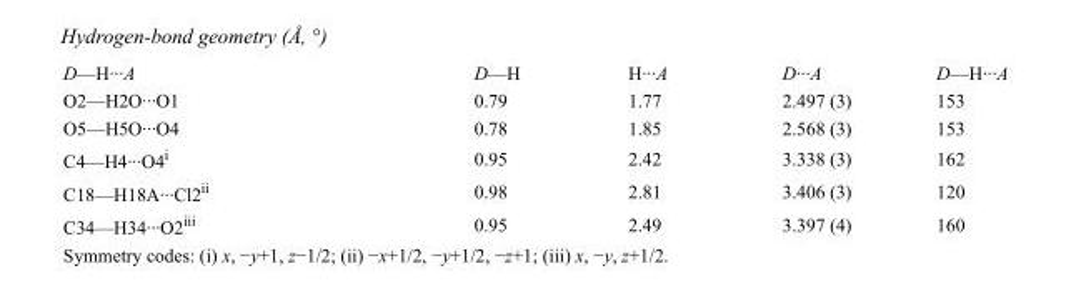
<table><tbody><tr><td>D—H···A</td><td>D—H</td><td>H···A</td><td>D···A</td><td>D—H···A</td></tr><tr><td>O2—H2O···O1</td><td>0.79</td><td>1.77</td><td>2.497 (3)</td><td>153</td></tr><tr><td>O5—H5O···O4</td><td>0.78</td><td>1.85</td><td>2.568 (3)</td><td>153</td></tr><tr><td>C4—H4···O4<sup>i</sup></td><td>0.95</td><td>2.42</td><td>3.338 (3)</td><td>162</td></tr><tr><td>C18—H18A···Cl2<sup>ii</sup></td><td>0.98</td><td>2.81</td><td>3.406 (3)</td><td>120</td></tr><tr><td>C34—H34···O2<sup>iii</sup></td><td>0.95</td><td>2.49</td><td>3.397 (4)</td><td>160</td></tr></tbody></table>